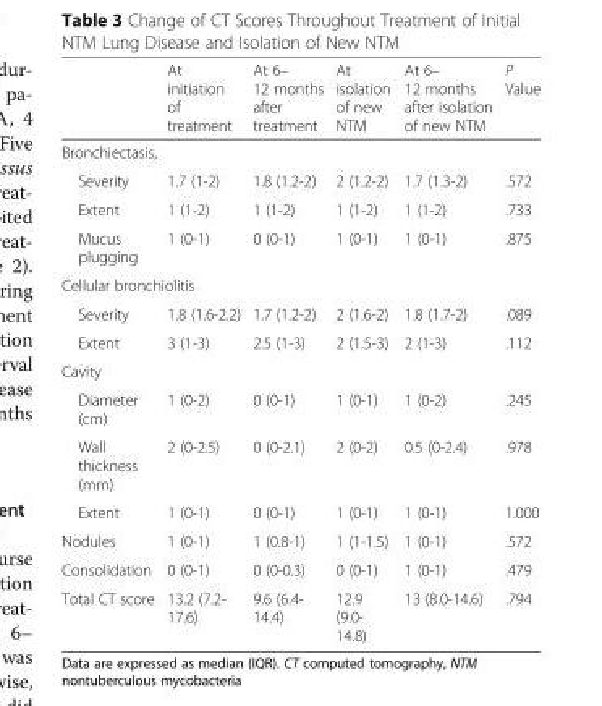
<table><thead><tr><td></td><td>At initiation of treatment</td><td>At 6– 12 months after treatment</td><td>At isolation of new NTM</td><td>At 6– 12 months after isolation of new NTM</td><td>P Value</td></tr></thead><tbody><tr><td colspan="6">Bronchiectasis,</td></tr><tr><td>Severity</td><td>1.7 (1-2)</td><td>1.8 (1.2-2)</td><td>2 (1.2-2)</td><td>1.7 (1.3-2)</td><td>.572</td></tr><tr><td>Extent</td><td>1 (1-2)</td><td>1 (1-2)</td><td>1 (1-2)</td><td>1 (1-2)</td><td>.733</td></tr><tr><td>Mucus plugging</td><td>1 (0-1)</td><td>0 (0-1)</td><td>1 (0-1)</td><td>1 (0-1)</td><td>.875</td></tr><tr><td colspan="6">Cellular bronchiolitis</td></tr><tr><td>Severity</td><td>1.8 (1.6-2.2)</td><td>1.7 (1.2-2)</td><td>2 (1.6-2)</td><td>1.8 (1.7-2)</td><td>.089</td></tr><tr><td>Extent</td><td>3 (1-3)</td><td>2.5 (1-3)</td><td>2 (1.5-3)</td><td>2 (1-3)</td><td>.112</td></tr><tr><td colspan="6">Cavity</td></tr><tr><td>Diameter (cm)</td><td>1 (0-2)</td><td>0 (0-1)</td><td>1 (0-1)</td><td>1 (0-2)</td><td>.245</td></tr><tr><td>Wall thickness (mm)</td><td>2 (0-2.5)</td><td>0 (0-2.1)</td><td>2 (0-2)</td><td>0.5 (0-2.4)</td><td>.978</td></tr><tr><td>Extent</td><td>1 (0-1)</td><td>0 (0-1)</td><td>1 (0-1)</td><td>1 (0-1)</td><td>1.000</td></tr><tr><td>Nodules</td><td>1 (0-1)</td><td>1 (0.8-1)</td><td>1 (1-1.5)</td><td>1 (0-1)</td><td>.572</td></tr><tr><td>Consolidation</td><td>0 (0-1)</td><td>0 (0-0.3)</td><td>0 (0-1)</td><td>1 (0-1)</td><td>.479</td></tr><tr><td>Total CT score</td><td>13.2 (7.2- 17.6)</td><td>9.6 (6.4- 14.4)</td><td>12.9 (9.0- 14.8)</td><td>13 (8.0-14.6)</td><td>.794</td></tr></tbody></table>